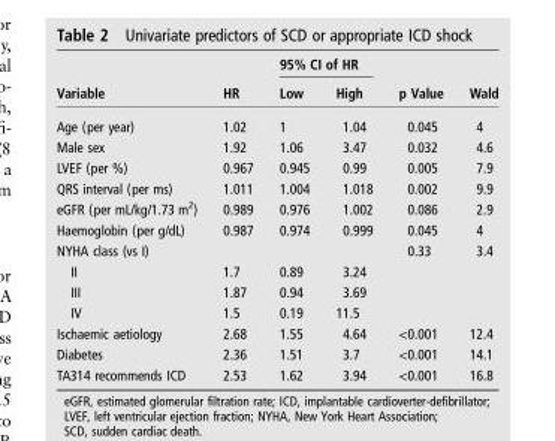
<table><thead><tr><td rowspan="2">Variable</td><td rowspan="2">HR</td><td colspan="2">95% CI of HR</td><td rowspan="2">p Value</td><td rowspan="2">Wald</td></tr><tr><td>Low</td><td>High</td></tr></thead><tbody><tr><td>Age (per year)</td><td>1.02</td><td>1</td><td>1.04</td><td>0.045</td><td>4</td></tr><tr><td>Male sex</td><td>1.92</td><td>1.06</td><td>3.47</td><td>0.032</td><td>4.6</td></tr><tr><td>LVEF (per %)</td><td>0.967</td><td>0.945</td><td>0.99</td><td>0.005</td><td>7.9</td></tr><tr><td>QRS interval (per ms)</td><td>1.011</td><td>1.004</td><td>1.018</td><td>0.002</td><td>9.9</td></tr><tr><td>eGFR (per mL/kg/1.73 m<sup>2</sup>)</td><td>0.989</td><td>0.976</td><td>1.002</td><td>0.086</td><td>2.9</td></tr><tr><td>Haemoglobin (per g/dL)</td><td>0.987</td><td>0.974</td><td>0.999</td><td>0.045</td><td>4</td></tr><tr><td>NYHA class (vs I)</td><td></td><td></td><td></td><td>0.33</td><td>3.4</td></tr><tr><td>II</td><td>1.7</td><td>0.89</td><td>3.24</td><td></td><td></td></tr><tr><td>III</td><td>1.87</td><td>0.94</td><td>3.69</td><td></td><td></td></tr><tr><td>IV</td><td>1.5</td><td>0.19</td><td>11.5</td><td></td><td></td></tr><tr><td>Ischaemic aetiology</td><td>2.68</td><td>1.55</td><td>4.64</td><td>&lt;0.001</td><td>12.4</td></tr><tr><td>Diabetes</td><td>2.36</td><td>1.51</td><td>3.7</td><td>&lt;0.001</td><td>14.1</td></tr><tr><td>TA314 recommends ICD</td><td>2.53</td><td>1.62</td><td>3.94</td><td>&lt;0.001</td><td>16.8</td></tr></tbody></table>